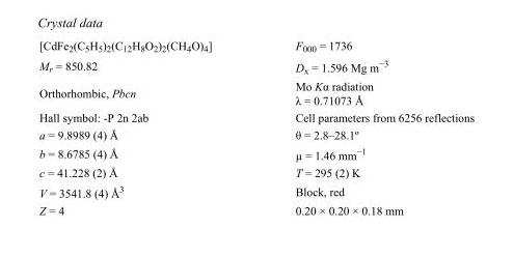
<table><tbody><tr><td>[CdFe<sub>2</sub>(C<sub>5</sub>H<sub>5</sub>)<sub>2</sub>(C<sub>12</sub>H<sub>8</sub>O<sub>2</sub>)<sub>2</sub>(CH<sub>4</sub>O)<sub>4</sub>]</td><td>F<sub>000</sub> = 1736</td></tr><tr><td>M<sub>r</sub> = 850.82</td><td>D<sub>x</sub> = 1.596 Mg m<sup>−3</sup></td></tr><tr><td>Orthorhombic, Pbcn</td><td>Mo Kα radiation λ = 0.71073 Å</td></tr><tr><td>Hall symbol: -P 2n 2ab</td><td>Cell parameters from 6256 reflections</td></tr><tr><td>a = 9.8989 (4) Å</td><td>θ = 2.8–28.1º</td></tr><tr><td>b = 8.6785 (4) Å</td><td>µ = 1.46 mm<sup>−1</sup></td></tr><tr><td>c = 41.228 (2) Å</td><td>T = 295 (2) K</td></tr><tr><td>V = 3541.8 (4) Å<sup>3</sup></td><td>Block, red</td></tr><tr><td>Z = 4</td><td>0.20 × 0.20 × 0.18 mm</td></tr></tbody></table>